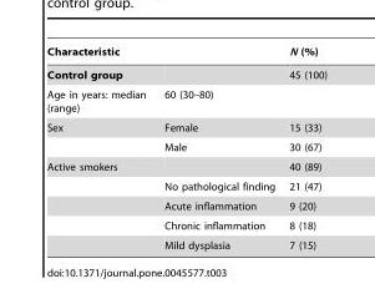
<table><thead><tr><td>Characteristic</td><td></td><td>N (%)</td></tr></thead><tbody><tr><td>Control group</td><td></td><td>45 (100)</td></tr><tr><td>Age in years: median (range)</td><td colspan="2">60 (30–80)</td></tr><tr><td rowspan="2">Sex</td><td>Female</td><td>15 (33)</td></tr><tr><td>Male</td><td>30 (67)</td></tr><tr><td rowspan="5">Active smokers</td><td></td><td>40 (89)</td></tr><tr><td>No pathological finding</td><td>21 (47)</td></tr><tr><td>Acute inflammation</td><td>9 (20)</td></tr><tr><td>Chronic inflammation</td><td>8 (18)</td></tr><tr><td>Mild dysplasia</td><td>7 (15)</td></tr></tbody></table>